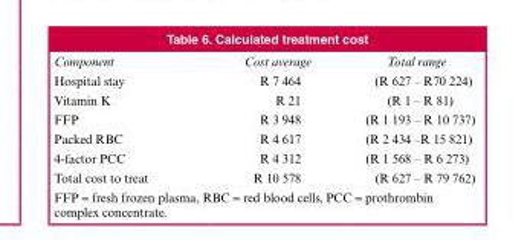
<table><thead><tr><td>Component</td><td>Cost average</td><td>Total range</td></tr></thead><tbody><tr><td>Hospital stay</td><td>R 7 464</td><td>(R 627 – R70 224)</td></tr><tr><td>Vitamin K</td><td>R 21</td><td>(R 1 – R 81)</td></tr><tr><td>FFP</td><td>R 3 948</td><td>(R 1 193 – R 10 737)</td></tr><tr><td>Packed RBC</td><td>R 4 617</td><td>(R 2 434 –R 15 821)</td></tr><tr><td>4-factor PCC</td><td>R 4 312</td><td>(R 1 568 – R 6 273)</td></tr><tr><td>Total cost to treat</td><td>R 10 578</td><td>(R 627 – R 79 762)</td></tr></tbody></table>